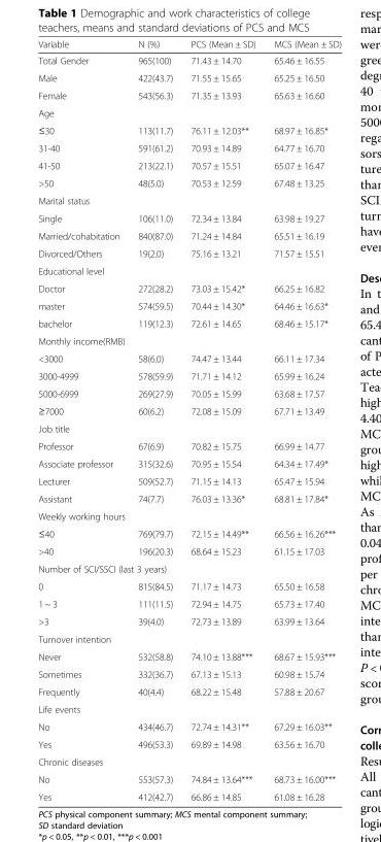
<table><thead><tr><td>Variable</td><td>N (%)</td><td>PCS (Mean ± SD)</td><td>MCS (Mean ± SD)</td></tr></thead><tbody><tr><td>Total Gender</td><td>965(100)</td><td>71.43 ± 14.70</td><td>65.46 ± 16.55</td></tr><tr><td>Male</td><td>422(43.7)</td><td>71.55 ± 15.65</td><td>65.25 ± 16.50</td></tr><tr><td>Female</td><td>543(56.3)</td><td>71.35 ± 13.93</td><td>65.63 ± 16.60</td></tr><tr><td colspan="4">Age</td></tr><tr><td>≤30</td><td>113(11.7)</td><td>76.11 ± 12.03**</td><td>68.97 ± 16.85*</td></tr><tr><td>31-40</td><td>591(61.2)</td><td>70.93 ± 14.89</td><td>64.77 ± 16.70</td></tr><tr><td>41-50</td><td>213(22.1)</td><td>70.57 ± 15.51</td><td>65.07 ± 16.47</td></tr><tr><td>&gt;50</td><td>48(5.0)</td><td>70.53 ± 12.59</td><td>67.48 ± 13.25</td></tr><tr><td colspan="4">Marital status</td></tr><tr><td>Single</td><td>106(11.0)</td><td>72.34 ± 13.84</td><td>63.98 ± 19.27</td></tr><tr><td>Married/cohabitation</td><td>840(87.0)</td><td>71.24 ± 14.84</td><td>65.51 ± 16.19</td></tr><tr><td>Divorced/Others</td><td>19(2.0)</td><td>75.16 ± 13.21</td><td>71.57 ± 15.51</td></tr><tr><td colspan="4">Educational level</td></tr><tr><td>Doctor</td><td>272(28.2)</td><td>73.03 ± 15.42*</td><td>66.25 ± 16.82</td></tr><tr><td>master</td><td>574(59.5)</td><td>70.44 ± 14.30*</td><td>64.46 ± 16.63*</td></tr><tr><td>bachelor</td><td>119(12.3)</td><td>72.61 ± 14.65</td><td>68.46 ± 15.17*</td></tr><tr><td colspan="4">Monthly income(RMB)</td></tr><tr><td>&lt;3000</td><td>58(6.0)</td><td>74.47 ± 13.44</td><td>66.11 ± 17.34</td></tr><tr><td>3000-4999</td><td>578(59.9)</td><td>71.71 ± 14.12</td><td>65.99 ± 16.24</td></tr><tr><td>5000-6999</td><td>269(27.9)</td><td>70.05 ± 15.99</td><td>63.68 ± 17.57</td></tr><tr><td>≥7000</td><td>60(6.2)</td><td>72.08 ± 15.09</td><td>67.71 ± 13.49</td></tr><tr><td colspan="4">Job title</td></tr><tr><td>Professor</td><td>67(6.9)</td><td>70.82 ± 15.75</td><td>66.99 ± 14.77</td></tr><tr><td>Associate professor</td><td>315(32.6)</td><td>70.95 ± 15.54</td><td>64.34 ± 17.49*</td></tr><tr><td>Lecturer</td><td>509(52.7)</td><td>71.15 ± 14.13</td><td>65.47 ± 15.94</td></tr><tr><td>Assistant</td><td>74(7.7)</td><td>76.03 ± 13.36*</td><td>68.81 ± 17.84*</td></tr><tr><td colspan="4">Weekly working hours</td></tr><tr><td>≤40</td><td>769(79.7)</td><td>72.15 ± 14.49**</td><td>66.56 ± 16.26***</td></tr><tr><td>&gt;40</td><td>196(20.3)</td><td>68.64 ± 15.23</td><td>61.15 ± 17.03</td></tr><tr><td colspan="4">Number of SCI/SSCI (last 3 years)</td></tr><tr><td>0</td><td>815(84.5)</td><td>71.17 ± 14.73</td><td>65.50 ± 16.58</td></tr><tr><td>1 ~ 3</td><td>111(11.5)</td><td>72.94 ± 14.75</td><td>65.73 ± 17.40</td></tr><tr><td>&gt;3</td><td>39(4.0)</td><td>72.73 ± 13.89</td><td>63.99 ± 13.64</td></tr><tr><td colspan="4">Turnover intention</td></tr><tr><td>Never</td><td>532(58.8)</td><td>74.10 ± 13.88***</td><td>68.67 ± 15.93***</td></tr><tr><td>Sometimes</td><td>332(36.7)</td><td>67.13 ± 15.13</td><td>60.98 ± 15.74</td></tr><tr><td>Frequently</td><td>40(4.4)</td><td>68.22 ± 15.48</td><td>57.88 ± 20.67</td></tr><tr><td colspan="4">Life events</td></tr><tr><td>No</td><td>434(46.7)</td><td>72.74 ± 14.31**</td><td>67.29 ± 16.03**</td></tr><tr><td>Yes</td><td>496(53.3)</td><td>69.89 ± 14.98</td><td>63.56 ± 16.70</td></tr><tr><td colspan="4">Chronic diseases</td></tr><tr><td>No</td><td>553(57.3)</td><td>74.84 ± 13.64***</td><td>68.73 ± 16.00***</td></tr><tr><td>Yes</td><td>412(42.7)</td><td>66.86 ± 14.85</td><td>61.08 ± 16.28</td></tr></tbody></table>